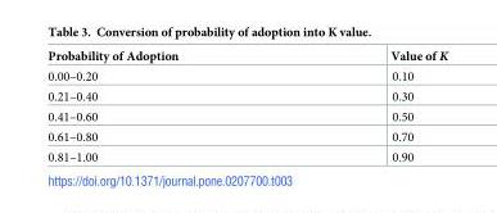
<table><thead><tr><td>Probability of Adoption</td><td>Value of K</td></tr></thead><tbody><tr><td>0.00–0.20</td><td>0.10</td></tr><tr><td>0.21–0.40</td><td>0.30</td></tr><tr><td>0.41–0.60</td><td>0.50</td></tr><tr><td>0.61–0.80</td><td>0.70</td></tr><tr><td>0.81–1.00</td><td>0.90</td></tr></tbody></table>